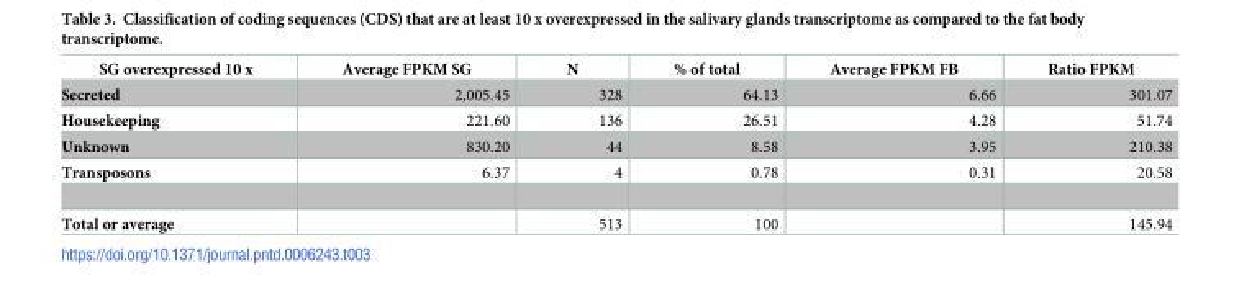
<table><thead><tr><td>SG overexpressed 10 x</td><td>Average FPKM SG</td><td>N</td><td>% of total</td><td>Average FPKM FB</td><td>Ratio FPKM</td></tr></thead><tbody><tr><td>Secreted</td><td>2,005.45</td><td>328</td><td>64.13</td><td>6.66</td><td>301.07</td></tr><tr><td>Housekeeping</td><td>221.60</td><td>136</td><td>26.51</td><td>4.28</td><td>51.74</td></tr><tr><td>Unknown</td><td>830.20</td><td>44</td><td>8.58</td><td>3.95</td><td>210.38</td></tr><tr><td>Transposons</td><td>6.37</td><td>4</td><td>0.78</td><td>0.31</td><td>20.58</td></tr><tr><td>Total or average</td><td></td><td>513</td><td>100</td><td></td><td>145.94</td></tr></tbody></table>